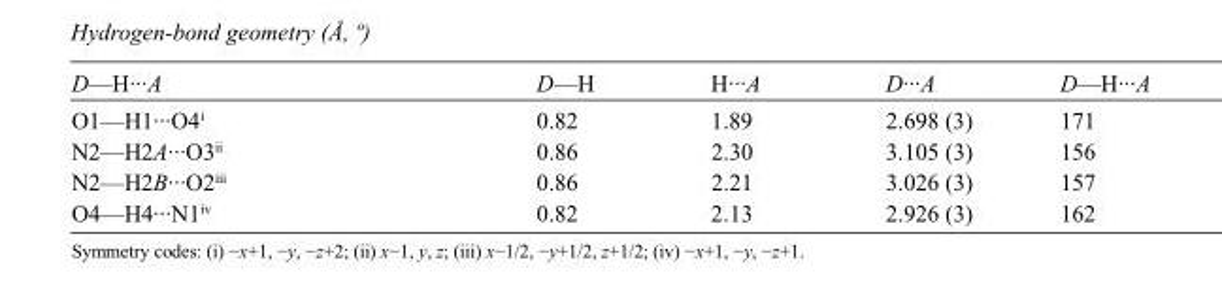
<table><tbody><tr><td>D—H···A</td><td>D—H</td><td>H···A</td><td>D···A</td><td>D—H···A</td></tr><tr><td>O1—H1···O4<sup>i</sup></td><td>0.82</td><td>1.89</td><td>2.698 (3)</td><td>171</td></tr><tr><td>N2—H2A···O3<sup>ii</sup></td><td>0.86</td><td>2.30</td><td>3.105 (3)</td><td>156</td></tr><tr><td>N2—H2B···O2<sup>iii</sup></td><td>0.86</td><td>2.21</td><td>3.026 (3)</td><td>157</td></tr><tr><td>O4—H4···N1<sup>iv</sup></td><td>0.82</td><td>2.13</td><td>2.926 (3)</td><td>162</td></tr></tbody></table>